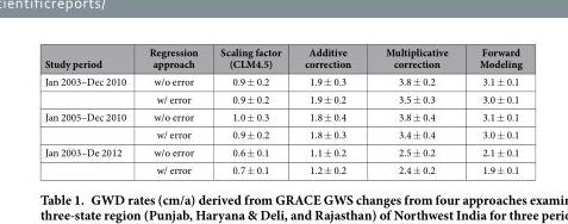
<table><thead><tr><td>Study period</td><td>Regression approach</td><td>Scaling factor (CLM4.5)</td><td>Additive correction</td><td>Multiplicative correction</td><td>Forward Modeling</td></tr></thead><tbody><tr><td rowspan="2">Jan 2003–Dec 2010</td><td>w/o error</td><td>0.9 ± 0.2</td><td>1.9 ± 0.3</td><td>3.8 ± 0.2</td><td>3.1 ± 0.1</td></tr><tr><td>w/ error</td><td>0.9 ± 0.2</td><td>1.9 ± 0.2</td><td>3.5 ± 0.3</td><td>3.0 ± 0.1</td></tr><tr><td rowspan="2">Jan 2005–Dec 2010</td><td>w/o error</td><td>1.0 ± 0.3</td><td>1.8 ± 0.4</td><td>3.8 ± 0.4</td><td>3.1 ± 0.1</td></tr><tr><td>w/ error</td><td>0.9 ± 0.2</td><td>1.8 ± 0.3</td><td>3.4 ± 0.4</td><td>3.0 ± 0.1</td></tr><tr><td rowspan="2">Jan 2003–De 2012</td><td>w/o error</td><td>0.6 ± 0.1</td><td>1.1 ± 0.2</td><td>2.5 ± 0.2</td><td>2.1 ± 0.1</td></tr><tr><td>w/ error</td><td>0.7 ± 0.1</td><td>1.2 ± 0.2</td><td>2.4 ± 0.2</td><td>1.9 ± 0.1</td></tr></tbody></table>